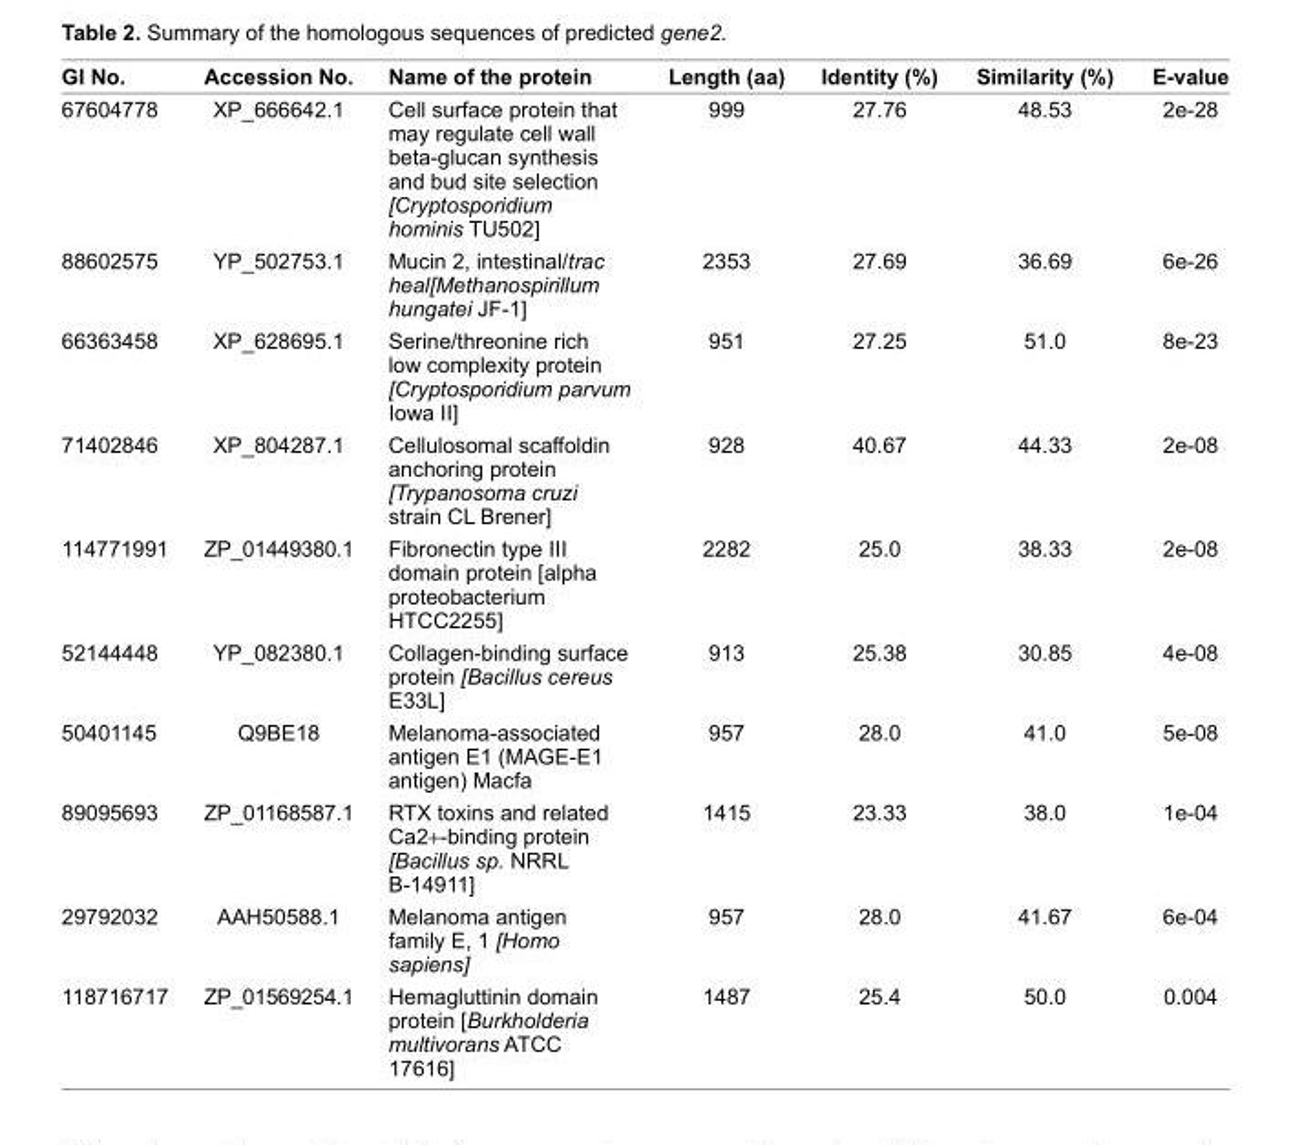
<table><thead><tr><td>GI no.</td><td>Accession no.</td><td>name of the protein</td><td>Length (aa)</td><td>Identity (%)</td><td>similarity (%)</td><td>e-value</td></tr></thead><tbody><tr><td>67604778</td><td>Xp_666642.1</td><td>Cell surface protein that may regulate cell wall beta-glucan synthesis and bud site selection [Cryptosporidium hominis TU502]</td><td>999</td><td>27.76</td><td>48.53</td><td>2e-28</td></tr><tr><td>88602575</td><td>yp_502753.1</td><td>Mucin 2, intestinal/trac heal[Methanospirillum hungatei JF-1]</td><td>2353</td><td>27.69</td><td>36.69</td><td>6e-26</td></tr><tr><td>66363458</td><td>Xp_628695.1</td><td>serine/threonine rich low complexity protein [Cryptosporidium parvum Iowa II]</td><td>951</td><td>27.25</td><td>51.0</td><td>8e-23</td></tr><tr><td>71402846</td><td>Xp_804287.1</td><td>Cellulosomal scaffoldin anchoring protein [Trypanosoma cruzi strain CL Brener]</td><td>928</td><td>40.67</td><td>44.33</td><td>2e-08</td></tr><tr><td>114771991</td><td>Zp_01449380.1</td><td>Fibronectin type III domain protein [alpha proteobacterium hTCC2255]</td><td>2282</td><td>25.0</td><td>38.33</td><td>2e-08</td></tr><tr><td>52144448</td><td>yp_082380.1</td><td>Collagen-binding surface protein [Bacillus cereus e33L]</td><td>913</td><td>25.38</td><td>30.85</td><td>4e-08</td></tr><tr><td>50401145</td><td>Q9Be18</td><td>Melanoma-associated antigen e1 (MAGe-e1 antigen) Macfa</td><td>957</td><td>28.0</td><td>41.0</td><td>5e-08</td></tr><tr><td>89095693</td><td>Zp_01168587.1</td><td>RTX toxins and related Ca2+-binding protein [Bacillus sp. NRRL B-14911]</td><td>1415</td><td>23.33</td><td>38.0</td><td>1e-04</td></tr><tr><td>29792032</td><td>AAh50588.1</td><td>Melanoma antigen family e, 1 [Homo sapiens]</td><td>957</td><td>28.0</td><td>41.67</td><td>6e-04</td></tr><tr><td>118716717</td><td>Zp_01569254.1</td><td>hemagluttinin domain protein [Burkholderia multivorans ATCC 17616]</td><td>1487</td><td>25.4</td><td>50.0</td><td>0.004</td></tr></tbody></table>